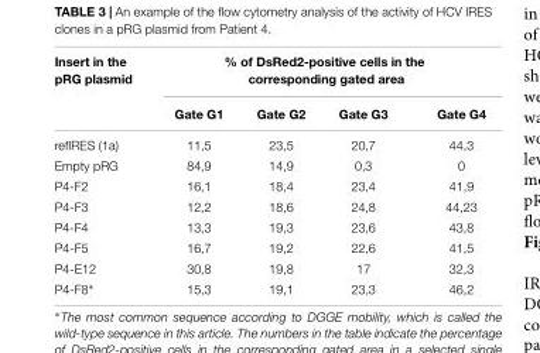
<table><thead><tr><td rowspan="2">Insert in the pRG plasmid</td><td colspan="4">% of DsRed2-positive cells in the corresponding gated area</td></tr><tr><td>Gate G1</td><td>Gate G2</td><td>Gate G3</td><td>Gate G4</td></tr></thead><tbody><tr><td>refIRES (1a)</td><td>11,5</td><td>23,5</td><td>20,7</td><td>44,3</td></tr><tr><td>Empty pRG</td><td>84,9</td><td>14,9</td><td>0,3</td><td>0</td></tr><tr><td>P4-F2</td><td>16,1</td><td>18,4</td><td>23,4</td><td>41,9</td></tr><tr><td>P4-F3</td><td>12,2</td><td>18,6</td><td>24,8</td><td>44,23</td></tr><tr><td>P4-F4</td><td>13,3</td><td>19,3</td><td>23,6</td><td>43,8</td></tr><tr><td>P4-F5</td><td>16,7</td><td>19,2</td><td>22,6</td><td>41,5</td></tr><tr><td>P4-E12</td><td>30,8</td><td>19,8</td><td>17</td><td>32,3</td></tr><tr><td>P4-F8∗</td><td>15,3</td><td>19,1</td><td>23,3</td><td>46,2</td></tr></tbody></table>